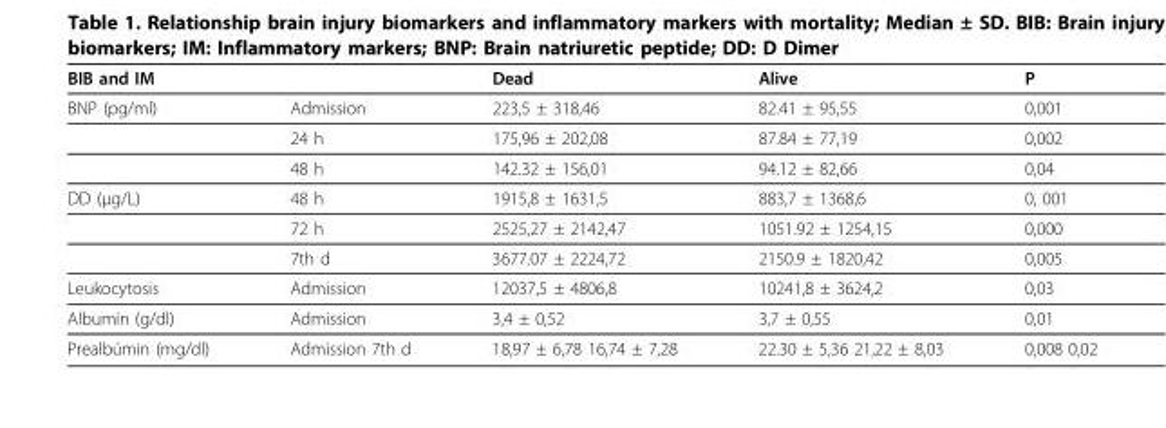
<table><thead><tr><td>BIB and IM</td><td></td><td>Dead</td><td>Alive</td><td>P</td></tr></thead><tbody><tr><td rowspan="3">BNP (pg/ml)</td><td>Admission</td><td>223,5 ± 318,46</td><td>82.41 ± 95,55</td><td>0,001</td></tr><tr><td>24 h</td><td>175,96 ± 202,08</td><td>87.84 ± 77,19</td><td>0,002</td></tr><tr><td>48 h</td><td>142.32 ± 156,01</td><td>94.12 ± 82,66</td><td>0,04</td></tr><tr><td rowspan="3">DD (µg/L)</td><td>48 h</td><td>1915,8 ± 1631,5</td><td>883,7 ± 1368,6</td><td>0, 001</td></tr><tr><td>72 h</td><td>2525,27 ± 2142,47</td><td>1051.92 ± 1254,15</td><td>0,000</td></tr><tr><td>7th d</td><td>3677.07 ± 2224,72</td><td>2150.9 ± 1820,42</td><td>0,005</td></tr><tr><td>Leukocytosis</td><td>Admission</td><td>12037,5 ± 4806,8</td><td>10241,8 ± 3624,2</td><td>0,03</td></tr><tr><td>Albumin (g/dl)</td><td>Admission</td><td>3,4 ± 0,52</td><td>3,7 ± 0,55</td><td>0,01</td></tr><tr><td>Prealbúmin (mg/dl)</td><td>Admission 7th d</td><td>18,97 ± 6,78 16,74 ± 7,28</td><td>22.30 ± 5,36 21,22 ± 8,03</td><td>0,008 0,02</td></tr></tbody></table>